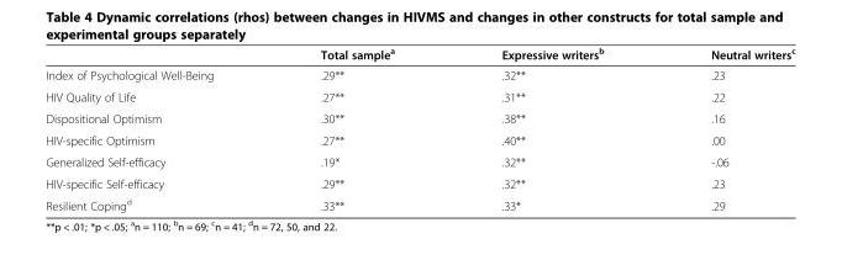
<table><thead><tr><td></td><td>Total sample<sup>a</sup></td><td>Expressive writers<sup>b</sup></td><td>Neutral writers<sup>c</sup></td></tr></thead><tbody><tr><td>Index of Psychological Well-Being</td><td>.29**</td><td>.32**</td><td>.23</td></tr><tr><td>HIV Quality of Life</td><td>.27**</td><td>.31**</td><td>.22</td></tr><tr><td>Dispositional Optimism</td><td>.30**</td><td>.38**</td><td>.16</td></tr><tr><td>HIV-specific Optimism</td><td>.27**</td><td>.40**</td><td>.00</td></tr><tr><td>Generalized Self-efficacy</td><td>.19*</td><td>.32**</td><td>-.06</td></tr><tr><td>HIV-specific Self-efficacy</td><td>.29**</td><td>.32**</td><td>.23</td></tr><tr><td>Resilient Coping<sup>d</sup></td><td>.33**</td><td>.33*</td><td>.29</td></tr></tbody></table>